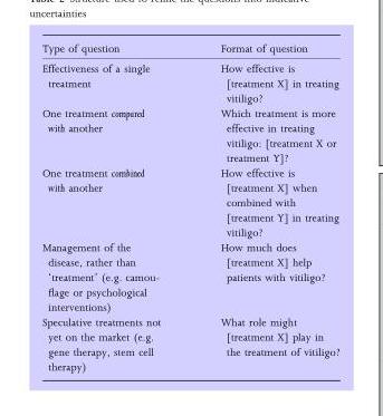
<table><thead><tr><td>Type of question</td><td>Format of question</td></tr></thead><tbody><tr><td>Effectiveness of a single treatment</td><td>How effective is [treatment X] in treating vitiligo?</td></tr><tr><td>One treatment compared with another</td><td>Which treatment is more effective in treating vitiligo: [treatment X or treatment Y]?</td></tr><tr><td>One treatment combined with another</td><td>How effective is [treatment X] when combined with [treatment Y] in treating vitiligo?</td></tr><tr><td>Management of the disease, rather than ‘treatment’ (e.g. camou- flage or psychological interventions)</td><td>How much does [treatment X] help patients with vitiligo?</td></tr><tr><td>Speculative treatments not yet on the market (e.g. gene therapy, stem cell therapy)</td><td>What role might [treatment X] play in the treatment of vitiligo?</td></tr></tbody></table>